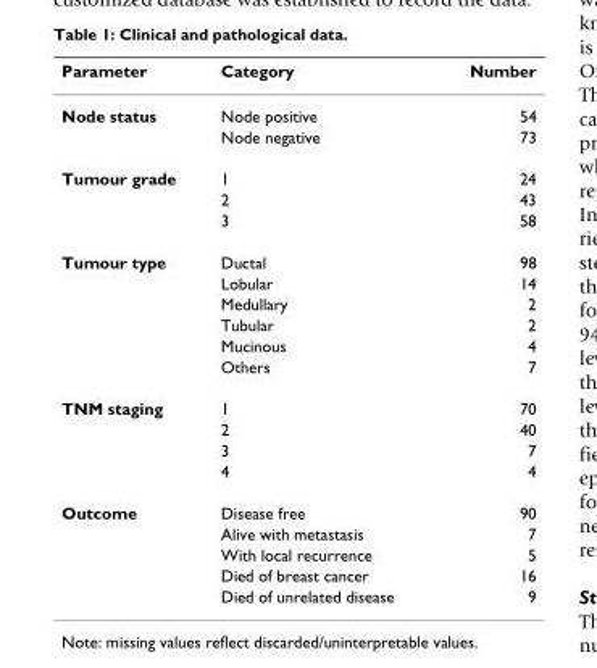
<table><thead><tr><td>Parameter</td><td>Category</td><td>Number</td></tr></thead><tbody><tr><td rowspan="2">Node status</td><td>Node positive</td><td>54</td></tr><tr><td>Node negative</td><td>73</td></tr><tr><td rowspan="3">Tumour grade</td><td>1</td><td>24</td></tr><tr><td>2</td><td>43</td></tr><tr><td>3</td><td>58</td></tr><tr><td rowspan="6">Tumour type</td><td>Ductal</td><td>98</td></tr><tr><td>Lobular</td><td>14</td></tr><tr><td>Medullary</td><td>2</td></tr><tr><td>Tubular</td><td>2</td></tr><tr><td>Mucinous</td><td>4</td></tr><tr><td>Others</td><td>7</td></tr><tr><td rowspan="4">TNM staging</td><td>1</td><td>70</td></tr><tr><td>2</td><td>40</td></tr><tr><td>3</td><td>7</td></tr><tr><td>4</td><td>4</td></tr><tr><td rowspan="5">Outcome</td><td>Disease free</td><td>90</td></tr><tr><td>Alive with metastasis</td><td>7</td></tr><tr><td>With local recurrence</td><td>5</td></tr><tr><td>Died of breast cancer</td><td>16</td></tr><tr><td>Died of unrelated disease</td><td>9</td></tr></tbody></table>